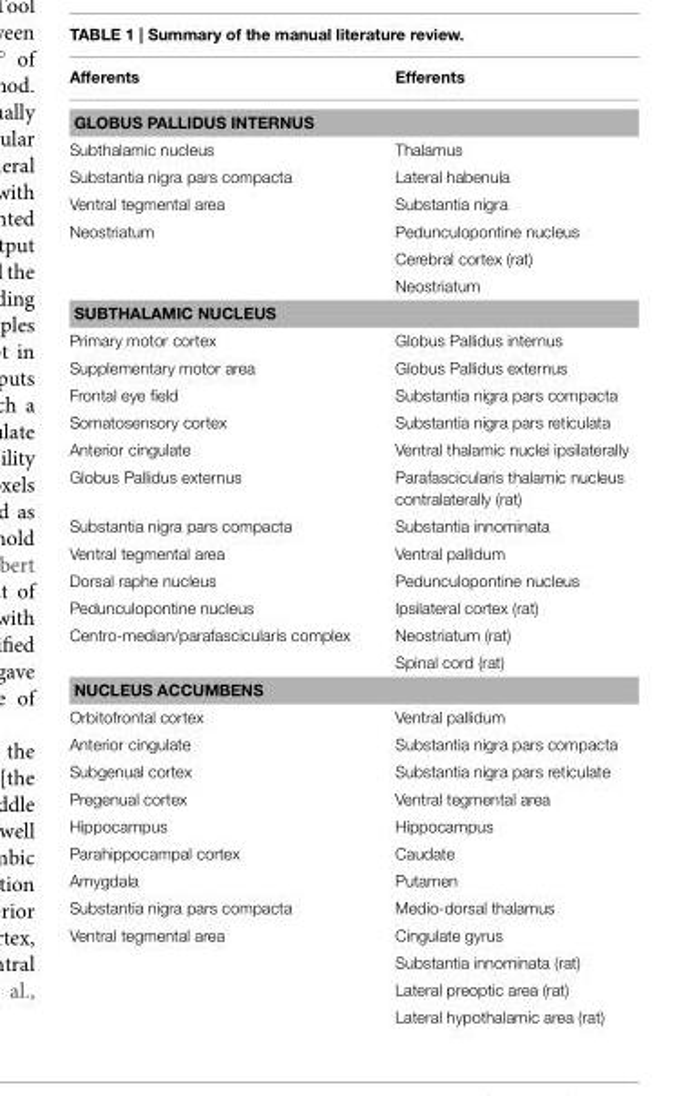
<table><thead><tr><td>Afferents</td><td>Efferents</td></tr></thead><tbody><tr><td colspan="2">GLOBUS PALLIDUS INTERNUS</td></tr><tr><td>Subthalamic nucleus</td><td>Thalamus</td></tr><tr><td>Substantia nigra pars compacta</td><td>Lateral habenula</td></tr><tr><td>Ventral tegmental area</td><td>Substantia nigra</td></tr><tr><td rowspan="3">Neostriatum</td><td>Pedunculopontine nucleus</td></tr><tr><td>Cerebral cortex (rat)</td></tr><tr><td>Neostriatum</td></tr><tr><td colspan="2">SUBTHALAMIC NUCLEUS</td></tr><tr><td>Primary motor cortex</td><td>Globus Pallidus internus</td></tr><tr><td>Supplementary motor area</td><td>Globus Pallidus externus</td></tr><tr><td>Frontal eye field</td><td>Substantia nigra pars compacta</td></tr><tr><td>Somatosensory cortex</td><td>Substantia nigra pars reticulata</td></tr><tr><td>Anterior cingulate</td><td>Ventral thalamic nuclei ipsilaterally</td></tr><tr><td>Globus Pallidus externus</td><td>Parafascicularis thalamic nucleus contralaterally (rat)</td></tr><tr><td>Substantia nigra pars compacta</td><td>Substantia innominata</td></tr><tr><td>Ventral tegmental area</td><td>Ventral pallidum</td></tr><tr><td>Dorsal raphe nucleus</td><td>Pedunculopontine nucleus</td></tr><tr><td>Pedunculopontine nucleus</td><td>Ipsilateral cortex (rat)</td></tr><tr><td rowspan="2">Centro-median/parafascicularis complex</td><td>Neostriatum (rat)</td></tr><tr><td>Spinal cord (rat)</td></tr><tr><td colspan="2">NUCLEUS ACCUMBENS</td></tr><tr><td>Orbitofrontal cortex</td><td>Ventral pallidum</td></tr><tr><td>Anterior cingulate</td><td>Substantia nigra pars compacta</td></tr><tr><td>Subgenual cortex</td><td>Substantia nigra pars reticulate</td></tr><tr><td>Pregenual cortex</td><td>Ventral tegmental area</td></tr><tr><td>Hippocampus</td><td>Hippocampus</td></tr><tr><td>Parahippocampal cortex</td><td>Caudate</td></tr><tr><td>Amygdala</td><td>Putamen</td></tr><tr><td>Substantia nigra pars compacta</td><td>Medio-dorsal thalamus</td></tr><tr><td rowspan="4">Ventral tegmental area</td><td>Cingulate gyrus</td></tr><tr><td>Substantia innominata (rat)</td></tr><tr><td>Lateral preoptic area (rat)</td></tr><tr><td>Lateral hypothalamic area (rat)</td></tr></tbody></table>